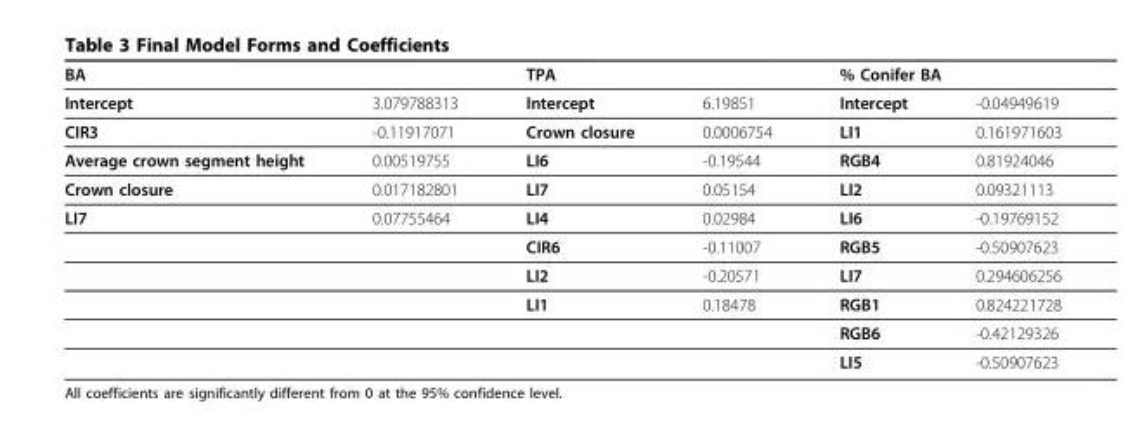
<table><thead><tr><td colspan="2">BA</td><td colspan="2">TPA</td><td colspan="2">% Conifer BA</td></tr><tr><td>Intercept</td><td>3.079788313</td><td>Intercept</td><td>6.19851</td><td>Intercept</td><td>-0.04949619</td></tr></thead><tbody><tr><td>CIR3</td><td>-0.11917071</td><td>Crown closure</td><td>0.0006754</td><td>LI1</td><td>0.161971603</td></tr><tr><td>Average crown segment height</td><td>0.00519755</td><td>LI6</td><td>-0.19544</td><td>RGB4</td><td>0.81924046</td></tr><tr><td>Crown closure</td><td>0.017182801</td><td>LI7</td><td>0.05154</td><td>LI2</td><td>0.09321113</td></tr><tr><td rowspan="6">LI7</td><td>0.07755464</td><td>LI4</td><td>0.02984</td><td>LI6</td><td>-0.19769152</td></tr><tr><td></td><td>CIR6</td><td>-0.11007</td><td>RGB5</td><td>-0.50907623</td></tr><tr><td></td><td>LI2</td><td>-0.20571</td><td>LI7</td><td>0.294606256</td></tr><tr><td></td><td>LI1</td><td>0.18478</td><td>RGB1</td><td>0.824221728</td></tr><tr><td></td><td></td><td></td><td>RGB6</td><td>-0.42129326</td></tr><tr><td></td><td></td><td></td><td>LI5</td><td>-0.50907623</td></tr></tbody></table>